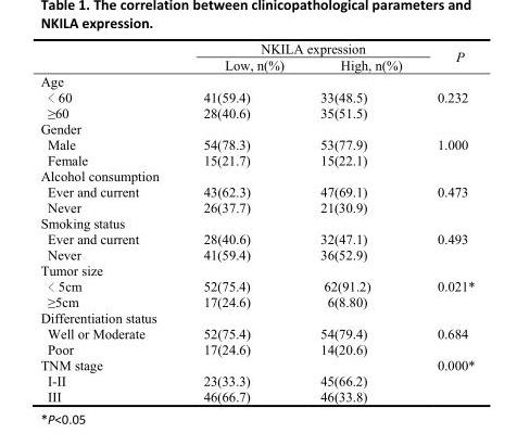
<table><thead><tr><td rowspan="2"></td><td colspan="2">NKILA expression</td><td rowspan="2">P</td></tr><tr><td>Low, n(%)</td><td>High, n(%)</td></tr></thead><tbody><tr><td colspan="4">Age</td></tr><tr><td>﹤60</td><td>41(59.4)</td><td>33(48.5)</td><td>0.232</td></tr><tr><td>≥60</td><td>28(40.6)</td><td>35(51.5)</td><td></td></tr><tr><td colspan="4">Gender</td></tr><tr><td>Male</td><td>54(78.3)</td><td>53(77.9)</td><td>1.000</td></tr><tr><td>Female</td><td>15(21.7)</td><td>15(22.1)</td><td></td></tr><tr><td colspan="4">Alcohol consumption</td></tr><tr><td>Ever and current</td><td>43(62.3)</td><td>47(69.1)</td><td>0.473</td></tr><tr><td>Never</td><td>26(37.7)</td><td>21(30.9)</td><td></td></tr><tr><td colspan="4">Smoking status</td></tr><tr><td>Ever and current</td><td>28(40.6)</td><td>32(47.1)</td><td>0.493</td></tr><tr><td>Never</td><td>41(59.4)</td><td>36(52.9)</td><td></td></tr><tr><td colspan="4">Tumor size</td></tr><tr><td>﹤5cm</td><td>52(75.4)</td><td>62(91.2)</td><td>0.021*</td></tr><tr><td>≥5cm</td><td>17(24.6)</td><td>6(8.80)</td><td></td></tr><tr><td colspan="4">Differentiation status</td></tr><tr><td>Well or Moderate</td><td>52(75.4)</td><td>54(79.4)</td><td>0.684</td></tr><tr><td>Poor</td><td>17(24.6)</td><td>14(20.6)</td><td></td></tr><tr><td>TNM stage</td><td></td><td></td><td>0.000*</td></tr><tr><td>I-II</td><td>23(33.3)</td><td>45(66.2)</td><td></td></tr><tr><td>III</td><td>46(66.7)</td><td>46(33.8)</td><td></td></tr></tbody></table>